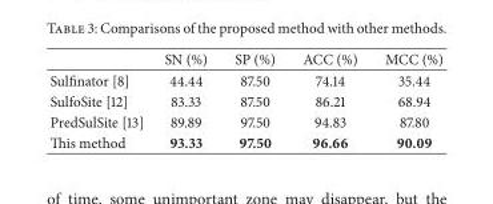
<table><thead><tr><td></td><td>SN (%)</td><td>SP (%)</td><td>ACC (%)</td><td>MCC (%)</td></tr></thead><tbody><tr><td>Sulfinator [8]</td><td>44.44</td><td>87.50</td><td>74.14</td><td>35.44</td></tr><tr><td>SulfoSite [12]</td><td>83.33</td><td>87.50</td><td>86.21</td><td>68.94</td></tr><tr><td>PredSulSite [13]</td><td>89.89</td><td>97.50</td><td>94.83</td><td>87.80</td></tr><tr><td>This method</td><td>93.33</td><td>97.50</td><td>96.66</td><td>90.09</td></tr></tbody></table>